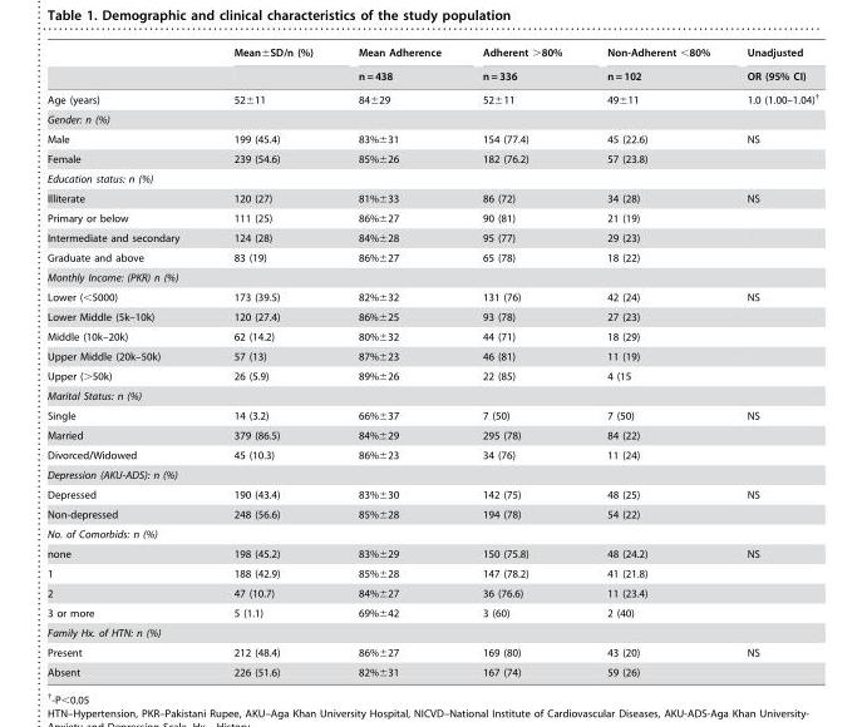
<table><thead><tr><td rowspan="2"></td><td rowspan="2">Mean±SD/n (%)</td><td rowspan="2">Mean Adherence n = 438</td><td rowspan="2">Adherent &gt;80% n = 336</td><td rowspan="2">Non-Adherent &lt;80% n = 102</td><td rowspan="2">Unadjusted OR (95% CI)</td></tr><tr></tr></thead><tbody><tr><td>Age (years)</td><td>52±11</td><td>84±29</td><td>52±11</td><td>49±11</td><td>1.0 (1.00–1.04)†</td></tr><tr><td colspan="6">Gender: n (%)</td></tr><tr><td>Male</td><td>199 (45.4)</td><td>83%±31</td><td>154 (77.4)</td><td>45 (22.6)</td><td>NS</td></tr><tr><td>Female</td><td>239 (54.6)</td><td>85%±26</td><td>182 (76.2)</td><td>57 (23.8)</td><td></td></tr><tr><td colspan="6">Education status: n (%)</td></tr><tr><td>Illiterate</td><td>120 (27)</td><td>81%±33</td><td>86 (72)</td><td>34 (28)</td><td>NS</td></tr><tr><td>Primary or below</td><td>111 (25)</td><td>86%±27</td><td>90 (81)</td><td>21 (19)</td><td></td></tr><tr><td>Intermediate and secondary</td><td>124 (28)</td><td>84%±28</td><td>95 (77)</td><td>29 (23)</td><td></td></tr><tr><td>Graduate and above</td><td>83 (19)</td><td>86%±27</td><td>65 (78)</td><td>18 (22)</td><td></td></tr><tr><td colspan="6">Monthly Income: (PKR) n (%)</td></tr><tr><td>Lower (&lt;5000)</td><td>173 (39.5)</td><td>82%±32</td><td>131 (76)</td><td>42 (24)</td><td>NS</td></tr><tr><td>Lower Middle (5k–10k)</td><td>120 (27.4)</td><td>86%±25</td><td>93 (78)</td><td>27 (23)</td><td></td></tr><tr><td>Middle (10k–20k)</td><td>62 (14.2)</td><td>80%±32</td><td>44 (71)</td><td>18 (29)</td><td></td></tr><tr><td>Upper Middle (20k–50k)</td><td>57 (13)</td><td>87%±23</td><td>46 (81)</td><td>11 (19)</td><td></td></tr><tr><td>Upper (&gt;50k)</td><td>26 (5.9)</td><td>89%±26</td><td>22 (85)</td><td>4 (15</td><td></td></tr><tr><td colspan="6">Marital Status: n (%)</td></tr><tr><td>Single</td><td>14 (3.2)</td><td>66%±37</td><td>7 (50)</td><td>7 (50)</td><td>NS</td></tr><tr><td>Married</td><td>379 (86.5)</td><td>84%±29</td><td>295 (78)</td><td>84 (22)</td><td></td></tr><tr><td>Divorced/Widowed</td><td>45 (10.3)</td><td>86%±23</td><td>34 (76)</td><td>11 (24)</td><td></td></tr><tr><td colspan="6">Depression (AKU-ADS): n (%)</td></tr><tr><td>Depressed</td><td>190 (43.4)</td><td>83%±30</td><td>142 (75)</td><td>48 (25)</td><td>NS</td></tr><tr><td>Non-depressed</td><td>248 (56.6)</td><td>85%±28</td><td>194 (78)</td><td>54 (22)</td><td></td></tr><tr><td colspan="6">No. of Comorbids: n (%)</td></tr><tr><td>none</td><td>198 (45.2)</td><td>83%±29</td><td>150 (75.8)</td><td>48 (24.2)</td><td>NS</td></tr><tr><td>1</td><td>188 (42.9)</td><td>85%±28</td><td>147 (78.2)</td><td>41 (21.8)</td><td></td></tr><tr><td>2</td><td>47 (10.7)</td><td>84%±27</td><td>36 (76.6)</td><td>11 (23.4)</td><td></td></tr><tr><td>3 or more</td><td>5 (1.1)</td><td>69%±42</td><td>3 (60)</td><td>2 (40)</td><td></td></tr><tr><td colspan="6">Family Hx. of HTN: n (%)</td></tr><tr><td>Present</td><td>212 (48.4)</td><td>86%±27</td><td>169 (80)</td><td>43 (20)</td><td>NS</td></tr><tr><td>Absent</td><td>226 (51.6)</td><td>82%±31</td><td>167 (74)</td><td>59 (26)</td><td></td></tr></tbody></table>